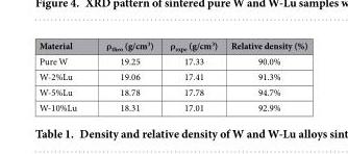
<table><thead><tr><td>Material</td><td>ρ<sub>theo</sub> (g/cm<sup>3</sup>)</td><td>ρ<sub>expe</sub> (g/cm<sup>3</sup>)</td><td>Relative density (%)</td></tr></thead><tbody><tr><td>Pure W</td><td>19.25</td><td>17.33</td><td>90.0%</td></tr><tr><td>W-2%Lu</td><td>19.06</td><td>17.41</td><td>91.3%</td></tr><tr><td>W-5%Lu</td><td>18.78</td><td>17.78</td><td>94.7%</td></tr><tr><td>W-10%Lu</td><td>18.31</td><td>17.01</td><td>92.9%</td></tr></tbody></table>